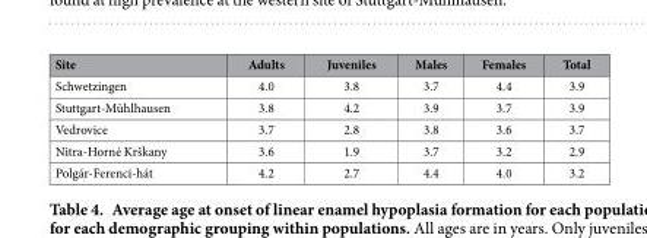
<table><thead><tr><td>Site</td><td>Adults</td><td>Juveniles</td><td>Males</td><td>Females</td><td>Total</td></tr></thead><tbody><tr><td>Schwetzingen</td><td>4.0</td><td>3.8</td><td>3.7</td><td>4.4</td><td>3.9</td></tr><tr><td>Stuttgart-Mühlhausen</td><td>3.8</td><td>4.2</td><td>3.9</td><td>3.7</td><td>3.9</td></tr><tr><td>Vedrovice</td><td>3.7</td><td>2.8</td><td>3.8</td><td>3.6</td><td>3.7</td></tr><tr><td>Nitra-Horné Krškany</td><td>3.6</td><td>1.9</td><td>3.7</td><td>3.2</td><td>2.9</td></tr><tr><td>Polgár-Ferenci-hát</td><td>4.2</td><td>2.7</td><td>4.4</td><td>4.0</td><td>3.2</td></tr></tbody></table>